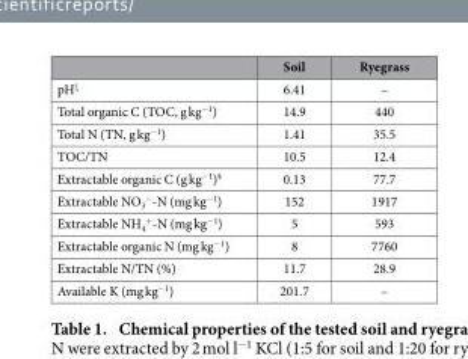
<table><thead><tr><td></td><td>Soil</td><td>Ryegrass</td></tr></thead><tbody><tr><td>pH<sup>ξ</sup></td><td>6.41</td><td>–</td></tr><tr><td>Total organic C (TOC, g kg<sup>−1</sup>)</td><td>14.9</td><td>440</td></tr><tr><td>Total N (TN, g kg<sup>−1</sup>)</td><td>1.41</td><td>35.5</td></tr><tr><td>TOC/TN</td><td>10.5</td><td>12.4</td></tr><tr><td>Extractable organic C (g kg<sup>−1</sup>)<sup>§</sup></td><td>0.13</td><td>77.7</td></tr><tr><td>Extractable NO<sub>3</sub> <sup>−</sup>-N (mg kg<sup>−1</sup>)</td><td>152</td><td>1917</td></tr><tr><td>Extractable NH<sub>4</sub> <sup>+</sup>-N (mg kg<sup>−1</sup>)</td><td>5</td><td>593</td></tr><tr><td>Extractable organic N (mg kg<sup>−1</sup>)</td><td>8</td><td>7760</td></tr><tr><td>Extractable N/TN (%)</td><td>11.7</td><td>28.9</td></tr><tr><td>Available K (mg kg<sup>−1</sup>)</td><td>201.7</td><td>–</td></tr></tbody></table>